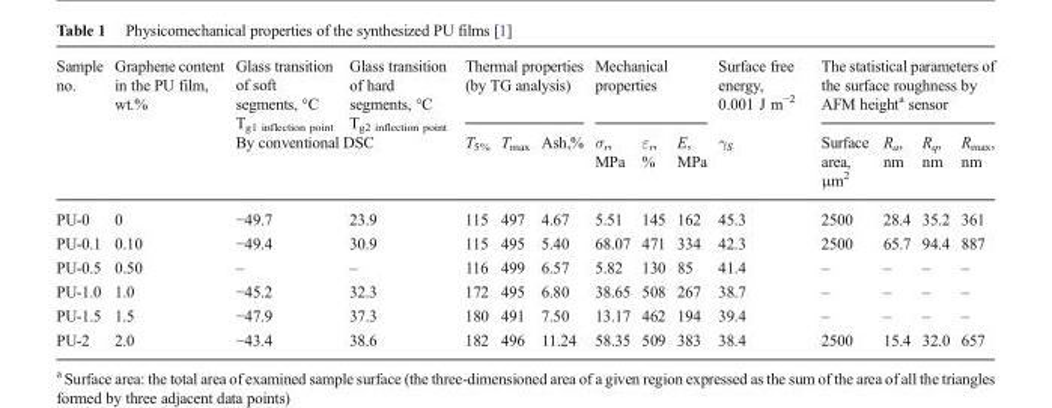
<table><thead><tr><td rowspan="2">Sample no.</td><td rowspan="2">Graphene content in the PU film, wt.%</td><td>Glass transition of soft segments, °C T<sub>g1 inflection point</sub></td><td>Glass transition of hard segments, °C T<sub>g2 inflection point</sub></td><td colspan="3">Thermal properties (by TG analysis)</td><td colspan="3">Mechanical properties</td><td rowspan="2">Surface free energy, 0.001 J m<sup>−2</sup> γ<sub>S</sub></td><td colspan="4">The statistical parameters of the surface roughness by AFM height<sup>a</sup> sensor</td></tr><tr><td colspan="2">By conventional DSC</td><td>T<sub>5%</sub></td><td>T<sub>max</sub></td><td>Ash,%</td><td>σ<sub>r</sub>, MPa</td><td>ε<sub>r</sub>, %</td><td>E, MPa</td><td>Surface area, μm<sup>2</sup></td><td>R<sub>a</sub>, nm</td><td>R<sub>q</sub>, nm</td><td>R<sub>max</sub>, nm</td></tr></thead><tbody><tr><td>PU-0</td><td>0</td><td>−49.7</td><td>23.9</td><td>115</td><td>497</td><td>4.67</td><td>5.51</td><td>145</td><td>162</td><td>45.3</td><td>2500</td><td>28.4</td><td>35.2</td><td>361</td></tr><tr><td>PU-0.1</td><td>0.10</td><td>−49.4</td><td>30.9</td><td>115</td><td>495</td><td>5.40</td><td>68.07</td><td>471</td><td>334</td><td>42.3</td><td>2500</td><td>65.7</td><td>94.4</td><td>887</td></tr><tr><td>PU-0.5</td><td>0.50</td><td>–</td><td>–</td><td>116</td><td>499</td><td>6.57</td><td>5.82</td><td>130</td><td>85</td><td>41.4</td><td>–</td><td>–</td><td>–</td><td>–</td></tr><tr><td>PU-1.0</td><td>1.0</td><td>−45.2</td><td>32.3</td><td>172</td><td>495</td><td>6.80</td><td>38.65</td><td>508</td><td>267</td><td>38.7</td><td>–</td><td>–</td><td>–</td><td>–</td></tr><tr><td>PU-1.5</td><td>1.5</td><td>−47.9</td><td>37.3</td><td>180</td><td>491</td><td>7.50</td><td>13.17</td><td>462</td><td>194</td><td>39.4</td><td>–</td><td>–</td><td>–</td><td>–</td></tr><tr><td>PU-2</td><td>2.0</td><td>−43.4</td><td>38.6</td><td>182</td><td>496</td><td>11.24</td><td>58.35</td><td>509</td><td>383</td><td>38.4</td><td>2500</td><td>15.4</td><td>32.0</td><td>657</td></tr></tbody></table>